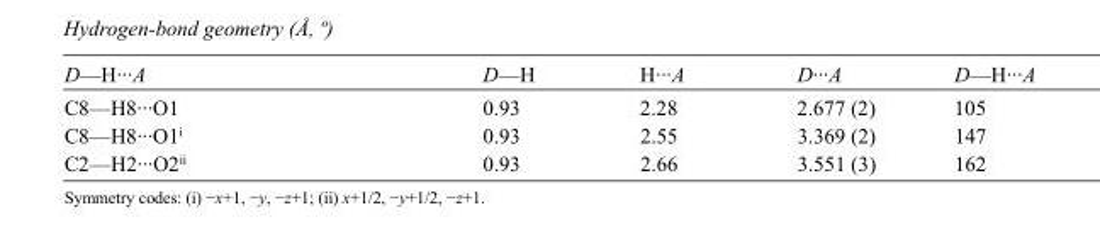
<table><tbody><tr><td>D—H···A</td><td>D—H</td><td>H···A</td><td>D···A</td><td>D—H···A</td></tr><tr><td>C8—H8···O1</td><td>0.93</td><td>2.28</td><td>2.677 (2)</td><td>105</td></tr><tr><td>C8—H8···O1<sup>i</sup></td><td>0.93</td><td>2.55</td><td>3.369 (2)</td><td>147</td></tr><tr><td>C2—H2···O2<sup>ii</sup></td><td>0.93</td><td>2.66</td><td>3.551 (3)</td><td>162</td></tr></tbody></table>